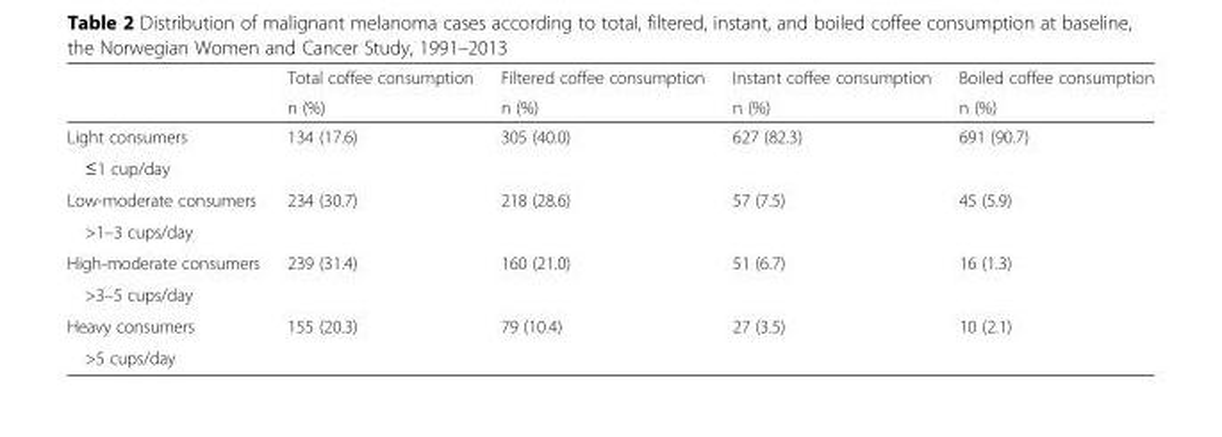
<table><thead><tr><td rowspan="2"></td><td rowspan="2">Total coffee consumption n (%)</td><td rowspan="2">Filtered coffee consumption n (%)</td><td rowspan="2">Instant coffee consumption n (%)</td><td rowspan="2">Boiled coffee consumption n (%)</td></tr><tr></tr></thead><tbody><tr><td>Light consumers</td><td rowspan="2">134 (17.6)</td><td rowspan="2">305 (40.0)</td><td rowspan="2">627 (82.3)</td><td rowspan="2">691 (90.7)</td></tr><tr><td>≤1 cup/day</td></tr><tr><td>Low-moderate consumers</td><td rowspan="2">234 (30.7)</td><td rowspan="2">218 (28.6)</td><td rowspan="2">57 (7.5)</td><td rowspan="2">45 (5.9)</td></tr><tr><td>&gt;1–3 cups/day</td></tr><tr><td>High-moderate consumers</td><td rowspan="2">239 (31.4)</td><td rowspan="2">160 (21.0)</td><td rowspan="2">51 (6.7)</td><td rowspan="2">16 (1.3)</td></tr><tr><td>&gt;3–5 cups/day</td></tr><tr><td>Heavy consumers</td><td rowspan="2">155 (20.3)</td><td rowspan="2">79 (10.4)</td><td rowspan="2">27 (3.5)</td><td rowspan="2">10 (2.1)</td></tr><tr><td>&gt;5 cups/day</td></tr></tbody></table>